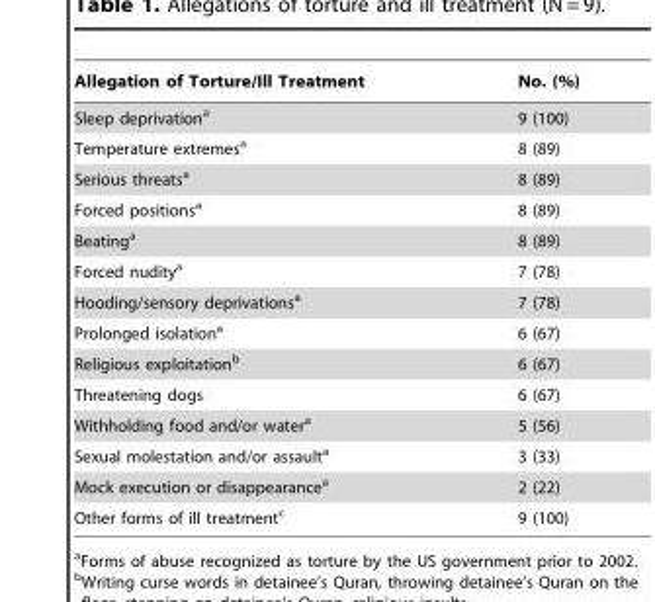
<table><thead><tr><td>Allegation of Torture/Ill Treatment</td><td>No. (%)</td></tr></thead><tbody><tr><td>Sleep deprivation<sup>a</sup></td><td>9 (100)</td></tr><tr><td>Temperature extremes<sup>a</sup></td><td>8 (89)</td></tr><tr><td>Serious threats<sup>a</sup></td><td>8 (89)</td></tr><tr><td>Forced positions<sup>a</sup></td><td>8 (89)</td></tr><tr><td>Beating<sup>a</sup></td><td>8 (89)</td></tr><tr><td>Forced nudity<sup>a</sup></td><td>7 (78)</td></tr><tr><td>Hooding/sensory deprivations<sup>a</sup></td><td>7 (78)</td></tr><tr><td>Prolonged isolation<sup>a</sup></td><td>6 (67)</td></tr><tr><td>Religious exploitation<sup>b</sup></td><td>6 (67)</td></tr><tr><td>Threatening dogs</td><td>6 (67)</td></tr><tr><td>Withholding food and/or water<sup>a</sup></td><td>5 (56)</td></tr><tr><td>Sexual molestation and/or assault<sup>a</sup></td><td>3 (33)</td></tr><tr><td>Mock execution or disappearance<sup>a</sup></td><td>2 (22)</td></tr><tr><td>Other forms of ill treatment<sup>c</sup></td><td>9 (100)</td></tr></tbody></table>